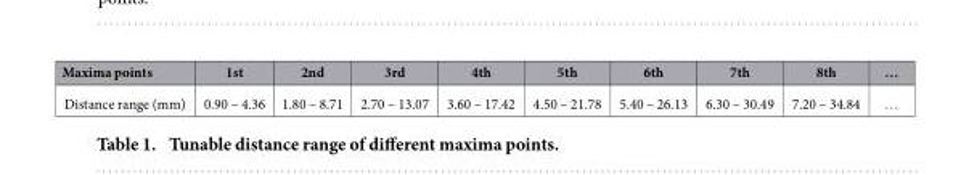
<table><thead><tr><td>Maxima points</td><td>1st</td><td>2nd</td><td>3rd</td><td>4th</td><td>5th</td><td>6th</td><td>7th</td><td>8th</td><td>…</td></tr></thead><tbody><tr><td>Distance range (mm)</td><td>0.90 – 4.36</td><td>1.80 – 8.71</td><td>2.70 – 13.07</td><td>3.60 – 17.42</td><td>4.50 – 21.78</td><td>5.40 – 26.13</td><td>6.30 – 30.49</td><td>7.20 – 34.84</td><td>…</td></tr></tbody></table>